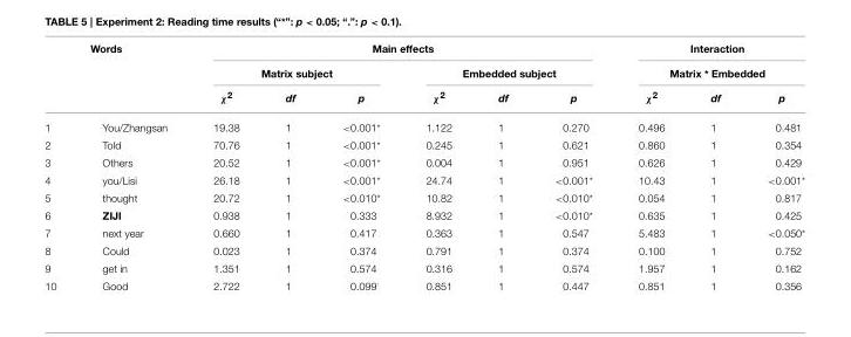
<table><thead><tr><td colspan="2">Words</td><td colspan="6">Main effects</td><td rowspan="2" colspan="3">Interaction Matrix * Embedded</td></tr><tr><td rowspan="2"></td><td rowspan="2"></td><td colspan="3">Matrix subject</td><td colspan="3">Embedded subject</td></tr><tr><td>χ<sup>2</sup></td><td>df</td><td>p</td><td>χ<sup>2</sup></td><td>df</td><td>p</td><td>χ<sup>2</sup></td><td>df</td><td>p</td></tr></thead><tbody><tr><td>1</td><td>You/Zhangsan</td><td>19.38</td><td>1</td><td>&lt;0.001*</td><td>1.122</td><td>1</td><td>0.270</td><td>0.496</td><td>1</td><td>0.481</td></tr><tr><td>2</td><td>Told</td><td>70.76</td><td>1</td><td>&lt;0.001*</td><td>0.245</td><td>1</td><td>0.621</td><td>0.860</td><td>1</td><td>0.354</td></tr><tr><td>3</td><td>Others</td><td>20.52</td><td>1</td><td>&lt;0.001*</td><td>0.004</td><td>1</td><td>0.951</td><td>0.626</td><td>1</td><td>0.429</td></tr><tr><td>4</td><td>you/Lisi</td><td>26.18</td><td>1</td><td>&lt;0.001*</td><td>24.74</td><td>1</td><td>&lt;0.001*</td><td>10.43</td><td>1</td><td>&lt;0.001*</td></tr><tr><td>5</td><td>thought</td><td>20.72</td><td>1</td><td>&lt;0.010*</td><td>10.82</td><td>1</td><td>&lt;0.010*</td><td>0.054</td><td>1</td><td>0.817</td></tr><tr><td>6</td><td>ZIJI</td><td>0.938</td><td>1</td><td>0.333</td><td>8.932</td><td>1</td><td>&lt;0.010*</td><td>0.635</td><td>1</td><td>0.425</td></tr><tr><td>7</td><td>next year</td><td>0.660</td><td>1</td><td>0.417</td><td>0.363</td><td>1</td><td>0.547</td><td>5.483</td><td>1</td><td>&lt;0.050*</td></tr><tr><td>8</td><td>Could</td><td>0.023</td><td>1</td><td>0.374</td><td>0.791</td><td>1</td><td>0.374</td><td>0.100</td><td>1</td><td>0.752</td></tr><tr><td>9</td><td>get in</td><td>1.351</td><td>1</td><td>0.574</td><td>0.316</td><td>1</td><td>0.574</td><td>1.957</td><td>1</td><td>0.162</td></tr><tr><td>10</td><td>Good</td><td>2.722</td><td>1</td><td>0.099<sup>·</sup></td><td>0.851</td><td>1</td><td>0.447</td><td>0.851</td><td>1</td><td>0.356</td></tr></tbody></table>